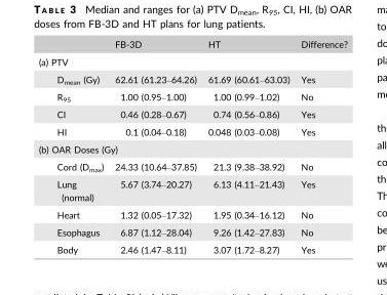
<table><thead><tr><td></td><td>FB-3D</td><td>HT</td><td>Difference?</td></tr></thead><tbody><tr><td colspan="4">(a) PTV</td></tr><tr><td>D<sub>mean</sub> (Gy)</td><td>62.61 (61.23–64.26)</td><td>61.69 (60.61–63.03)</td><td>Yes</td></tr><tr><td>R<sub>95</sub></td><td>1.00 (0.95–1.00)</td><td>1.00 (0.99–1.02)</td><td>No</td></tr><tr><td>CI</td><td>0.46 (0.28–0.67)</td><td>0.74 (0.56–0.86)</td><td>Yes</td></tr><tr><td>HI</td><td>0.1 (0.04–0.18)</td><td>0.048 (0.03–0.08)</td><td>Yes</td></tr><tr><td colspan="4">(b) OAR Doses (Gy)</td></tr><tr><td>Cord (D<sub>max</sub>)</td><td>24.33 (10.64–37.85)</td><td>21.3 (9.38–38.92)</td><td>No</td></tr><tr><td>Lung (normal)</td><td>5.67 (3.74–20.27)</td><td>6.13 (4.11–21.43)</td><td>Yes</td></tr><tr><td>Heart</td><td>1.32 (0.05–17.32)</td><td>1.95 (0.34–16.12)</td><td>No</td></tr><tr><td>Esophagus</td><td>6.87 (1.12–28.04)</td><td>9.26 (1.42–27.83)</td><td>No</td></tr><tr><td>Body</td><td>2.46 (1.47–8.11)</td><td>3.07 (1.72–8.27)</td><td>Yes</td></tr></tbody></table>